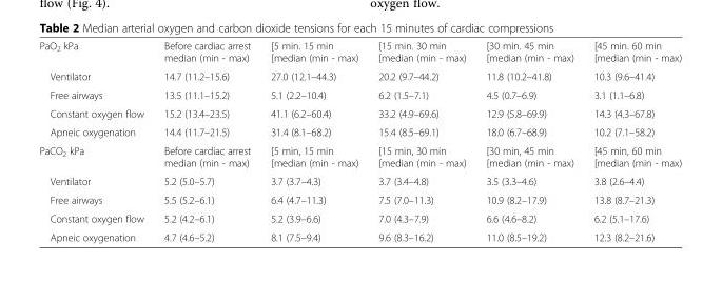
<table><tbody><tr><td>PaO<sub>2</sub> kPa</td><td>Before cardiac arrest median (min - max)</td><td>[5 min. 15 min [median (min - max)</td><td>[15 min. 30 min [median (min - max)</td><td>[30 min. 45 min [median (min - max)</td><td>[45 min. 60 min [median (min - max)</td></tr><tr><td>Ventilator</td><td>14.7 (11.2–15.6)</td><td>27.0 (12.1–44.3)</td><td>20.2 (9.7–44.2)</td><td>11.8 (10.2–41.8)</td><td>10.3 (9.6–41.4)</td></tr><tr><td>Free airways</td><td>13.5 (11.1–15.2)</td><td>5.1 (2.2–10.4)</td><td>6.2 (1.5–7.1)</td><td>4.5 (0.7–6.9)</td><td>3.1 (1.1–6.8)</td></tr><tr><td>Constant oxygen flow</td><td>15.2 (13.4–23.5)</td><td>41.1 (6.2–60.4)</td><td>33.2 (4.9–69.6)</td><td>12.9 (5.8–69.9)</td><td>14.3 (4.3–67.8)</td></tr><tr><td>Apneic oxygenation</td><td>14.4 (11.7–21.5)</td><td>31.4 (8.1–68.2)</td><td>15.4 (8.5–69.1)</td><td>18.0 (6.7–68.9)</td><td>10.2 (7.1–58.2)</td></tr><tr><td>PaCO<sub>2</sub> kPa</td><td>Before cardiac arrest median (min - max)</td><td>[5 min, 15 min [median (min - max)</td><td>[15 min, 30 min [median (min - max)</td><td>[30 min, 45 min [median (min - max)</td><td>[45 min, 60 min [median (min - max)</td></tr><tr><td>Ventilator</td><td>5.2 (5.0–5.7)</td><td>3.7 (3.7–4.3)</td><td>3.7 (3.4–4.8)</td><td>3.5 (3.3–4.6)</td><td>3.8 (2.6–4.4)</td></tr><tr><td>Free airways</td><td>5.5 (5.2–6.1)</td><td>6.4 (4.7–11.3)</td><td>7.5 (7.0–11.3)</td><td>10.9 (8.2–17.9)</td><td>13.8 (8.7–21.3)</td></tr><tr><td>Constant oxygen flow</td><td>5.2 (4.2–6.1)</td><td>5.2 (3.9–6.6)</td><td>7.0 (4.3–7.9)</td><td>6.6 (4.6–8.2)</td><td>6.2 (5.1–17.6)</td></tr><tr><td>Apneic oxygenation</td><td>4.7 (4.6–5.2)</td><td>8.1 (7.5–9.4)</td><td>9.6 (8.3–16.2)</td><td>11.0 (8.5–19.2)</td><td>12.3 (8.2–21.6)</td></tr></tbody></table>